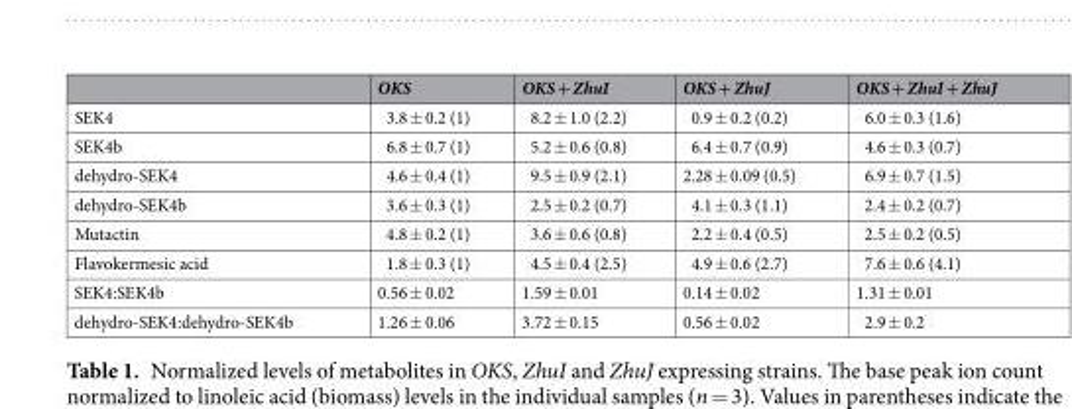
<table><thead><tr><td></td><td>OKS</td><td>OKS + ZhuI</td><td>OKS + ZhuJ</td><td>OKS + ZhuI + ZhuJ</td></tr></thead><tbody><tr><td>SEK4</td><td>3.8 ± 0.2 (1)</td><td>8.2 ± 1.0 (2.2)</td><td>0.9 ± 0.2 (0.2)</td><td>6.0 ± 0.3 (1.6)</td></tr><tr><td>SEK4b</td><td>6.8 ± 0.7 (1)</td><td>5.2 ± 0.6 (0.8)</td><td>6.4 ± 0.7 (0.9)</td><td>4.6 ± 0.3 (0.7)</td></tr><tr><td>dehydro-SEK4</td><td>4.6 ± 0.4 (1)</td><td>9.5 ± 0.9 (2.1)</td><td>2.28 ± 0.09 (0.5)</td><td>6.9 ± 0.7 (1.5)</td></tr><tr><td>dehydro-SEK4b</td><td>3.6 ± 0.3 (1)</td><td>2.5 ± 0.2 (0.7)</td><td>4.1 ± 0.3 (1.1)</td><td>2.4 ± 0.2 (0.7)</td></tr><tr><td>Mutactin</td><td>4.8 ± 0.2 (1)</td><td>3.6 ± 0.6 (0.8)</td><td>2.2 ± 0.4 (0.5)</td><td>2.5 ± 0.2 (0.5)</td></tr><tr><td>Flavokermesic acid</td><td>1.8 ± 0.3 (1)</td><td>4.5 ± 0.4 (2.5)</td><td>4.9 ± 0.6 (2.7)</td><td>7.6 ± 0.6 (4.1)</td></tr><tr><td>SEK4:SEK4b</td><td>0.56 ± 0.02</td><td>1.59 ± 0.01</td><td>0.14 ± 0.02</td><td>1.31 ± 0.01</td></tr><tr><td>dehydro-SEK4:dehydro-SEK4b</td><td>1.26 ± 0.06</td><td>3.72 ± 0.15</td><td>0.56 ± 0.02</td><td>2.9 ± 0.2</td></tr></tbody></table>